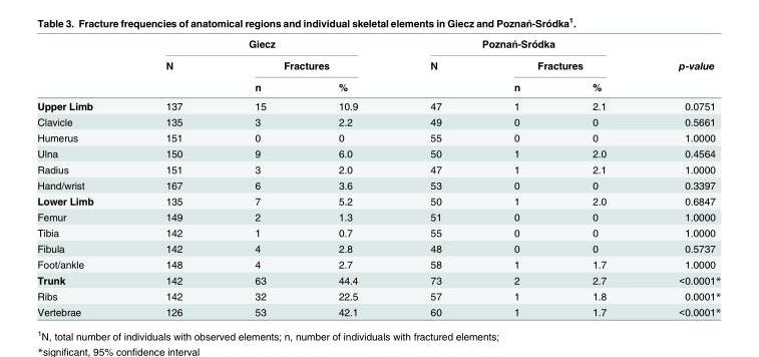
<table><thead><tr><td rowspan="3"></td><td colspan="3">Giecz</td><td colspan="3">Poznań-Sródka</td><td rowspan="3">p-value</td></tr><tr><td rowspan="2">N</td><td colspan="2">Fractures</td><td rowspan="2">N</td><td colspan="2">Fractures</td></tr><tr><td>n</td><td>%</td><td>n</td><td>%</td></tr></thead><tbody><tr><td>Upper Limb</td><td>137</td><td>15</td><td>10.9</td><td>47</td><td>1</td><td>2.1</td><td>0.0751</td></tr><tr><td>Clavicle</td><td>135</td><td>3</td><td>2.2</td><td>49</td><td>0</td><td>0</td><td>0.5661</td></tr><tr><td>Humerus</td><td>151</td><td>0</td><td>0</td><td>55</td><td>0</td><td>0</td><td>1.0000</td></tr><tr><td>Ulna</td><td>150</td><td>9</td><td>6.0</td><td>50</td><td>1</td><td>2.0</td><td>0.4564</td></tr><tr><td>Radius</td><td>151</td><td>3</td><td>2.0</td><td>47</td><td>1</td><td>2.1</td><td>1.0000</td></tr><tr><td>Hand/wrist</td><td>167</td><td>6</td><td>3.6</td><td>53</td><td>0</td><td>0</td><td>0.3397</td></tr><tr><td>Lower Limb</td><td>135</td><td>7</td><td>5.2</td><td>50</td><td>1</td><td>2.0</td><td>0.6847</td></tr><tr><td>Femur</td><td>149</td><td>2</td><td>1.3</td><td>51</td><td>0</td><td>0</td><td>1.0000</td></tr><tr><td>Tibia</td><td>142</td><td>1</td><td>0.7</td><td>55</td><td>0</td><td>0</td><td>1.0000</td></tr><tr><td>Fibula</td><td>142</td><td>4</td><td>2.8</td><td>48</td><td>0</td><td>0</td><td>0.5737</td></tr><tr><td>Foot/ankle</td><td>148</td><td>4</td><td>2.7</td><td>58</td><td>1</td><td>1.7</td><td>1.0000</td></tr><tr><td>Trunk</td><td>142</td><td>63</td><td>44.4</td><td>73</td><td>2</td><td>2.7</td><td>&lt;0.0001*</td></tr><tr><td>Ribs</td><td>142</td><td>32</td><td>22.5</td><td>57</td><td>1</td><td>1.8</td><td>0.0001*</td></tr><tr><td>Vertebrae</td><td>126</td><td>53</td><td>42.1</td><td>60</td><td>1</td><td>1.7</td><td>&lt;0.0001*</td></tr></tbody></table>